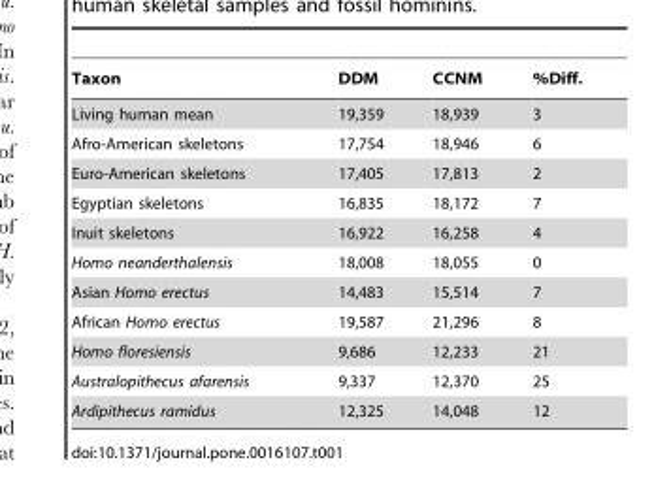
<table><thead><tr><td>Taxon</td><td>DDM</td><td>CCNM</td><td>%Diff.</td></tr></thead><tbody><tr><td>Living human mean</td><td>19,359</td><td>18,939</td><td>3</td></tr><tr><td>Afro-American skeletons</td><td>17,754</td><td>18,946</td><td>6</td></tr><tr><td>Euro-American skeletons</td><td>17,405</td><td>17,813</td><td>2</td></tr><tr><td>Egyptian skeletons</td><td>16,835</td><td>18,172</td><td>7</td></tr><tr><td>Inuit skeletons</td><td>16,922</td><td>16,258</td><td>4</td></tr><tr><td>Homo neanderthalensis</td><td>18,008</td><td>18,055</td><td>0</td></tr><tr><td>Asian Homo erectus</td><td>14,483</td><td>15,514</td><td>7</td></tr><tr><td>African Homo erectus</td><td>19,587</td><td>21,296</td><td>8</td></tr><tr><td>Homo floresiensis</td><td>9,686</td><td>12,233</td><td>21</td></tr><tr><td>Australopithecus afarensis</td><td>9,337</td><td>12,370</td><td>25</td></tr><tr><td>Ardipithecus ramidus</td><td>12,325</td><td>14,048</td><td>12</td></tr></tbody></table>